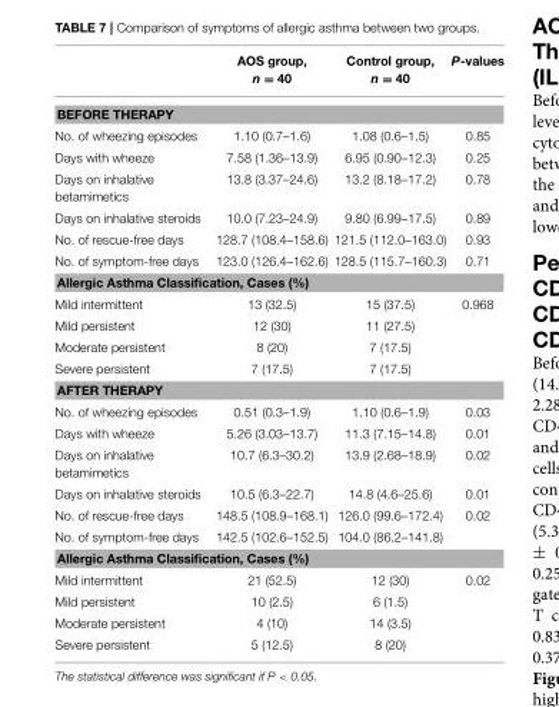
<table><thead><tr><td></td><td>AOS group, n = 40</td><td>Control group, n = 40</td><td>P-values</td></tr></thead><tbody><tr><td colspan="4">BEFORE THERAPY</td></tr><tr><td>No. of wheezing episodes</td><td>1.10 (0.7–1.6)</td><td>1.08 (0.6–1.5)</td><td>0.85</td></tr><tr><td>Days with wheeze</td><td>7.58 (1.36–13.9)</td><td>6.95 (0.90–12.3)</td><td>0.25</td></tr><tr><td>Days on inhalative betamimetics</td><td>13.8 (3.37–24.6)</td><td>13.2 (8.18–17.2)</td><td>0.78</td></tr><tr><td>Days on inhalative steroids</td><td>10.0 (7.23–24.9)</td><td>9.80 (6.99–17.5)</td><td>0.89</td></tr><tr><td>No. of rescue-free days</td><td>128.7 (108.4–158.6)</td><td>121.5 (112.0–163.0)</td><td>0.93</td></tr><tr><td>No. of symptom-free days</td><td>123.0 (126.4–162.6)</td><td>128.5 (115.7–160.3)</td><td>0.71</td></tr><tr><td colspan="4">Allergic Asthma Classification, Cases (%)</td></tr><tr><td>Mild intermittent</td><td>13 (32.5)</td><td>15 (37.5)</td><td>0.968</td></tr><tr><td>Mild persistent</td><td>12 (30)</td><td>11 (27.5)</td><td></td></tr><tr><td>Moderate persistent</td><td>8 (20)</td><td>7 (17.5)</td><td></td></tr><tr><td>Severe persistent</td><td>7 (17.5)</td><td>7 (17.5)</td><td></td></tr><tr><td colspan="4">AFTER THERAPY</td></tr><tr><td>No. of wheezing episodes</td><td>0.51 (0.3–1.9)</td><td>1.10 (0.6–1.9)</td><td>0.03</td></tr><tr><td>Days with wheeze</td><td>5.26 (3.03–13.7)</td><td>11.3 (7.15–14.8)</td><td>0.01</td></tr><tr><td>Days on inhalative betamimetics</td><td>10.7 (6.3–30.2)</td><td>13.9 (2.68–18.9)</td><td>0.02</td></tr><tr><td>Days on inhalative steroids</td><td>10.5 (6.3–22.7)</td><td>14.8 (4.6–25.6)</td><td>0.01</td></tr><tr><td>No. of rescue-free days</td><td>148.5 (108.9–168.1)</td><td>126.0 (99.6–172.4)</td><td>0.02</td></tr><tr><td>No. of symptom-free days</td><td>142.5 (102.6–152.5)</td><td>104.0 (86.2–141.8)</td><td></td></tr><tr><td colspan="4">Allergic Asthma Classification, Cases (%)</td></tr><tr><td>Mild intermittent</td><td>21 (52.5)</td><td>12 (30)</td><td>0.02</td></tr><tr><td>Mild persistent</td><td>10 (2.5)</td><td>6 (1.5)</td><td></td></tr><tr><td>Moderate persistent</td><td>4 (10)</td><td>14 (3.5)</td><td></td></tr><tr><td>Severe persistent</td><td>5 (12.5)</td><td>8 (20)</td><td></td></tr></tbody></table>